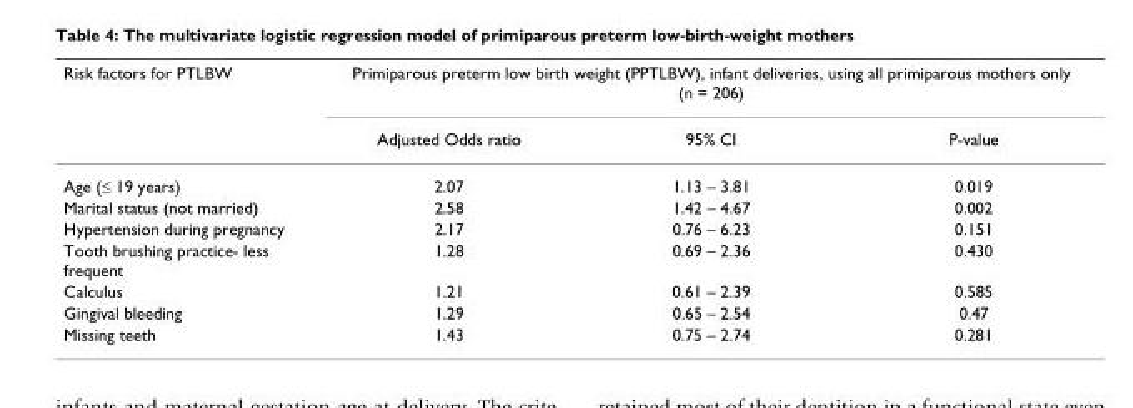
<table><thead><tr><td rowspan="2">Risk factors for PTLBW</td><td colspan="3">Primiparous preterm low birth weight (PPTLBW), infant deliveries, using all primiparous mothers only (n = 206)</td></tr><tr><td>Adjusted Odds ratio</td><td>95% CI</td><td>P-value</td></tr></thead><tbody><tr><td>Age (≤ 19 years)</td><td>2.07</td><td>1.13 – 3.81</td><td>0.019</td></tr><tr><td>Marital status (not married)</td><td>2.58</td><td>1.42 – 4.67</td><td>0.002</td></tr><tr><td>Hypertension during pregnancy</td><td>2.17</td><td>0.76 – 6.23</td><td>0.151</td></tr><tr><td>Tooth brushing practice- less frequent</td><td>1.28</td><td>0.69 – 2.36</td><td>0.430</td></tr><tr><td>Calculus</td><td>1.21</td><td>0.61 – 2.39</td><td>0.585</td></tr><tr><td>Gingival bleeding</td><td>1.29</td><td>0.65 – 2.54</td><td>0.47</td></tr><tr><td>Missing teeth</td><td>1.43</td><td>0.75 – 2.74</td><td>0.281</td></tr></tbody></table>